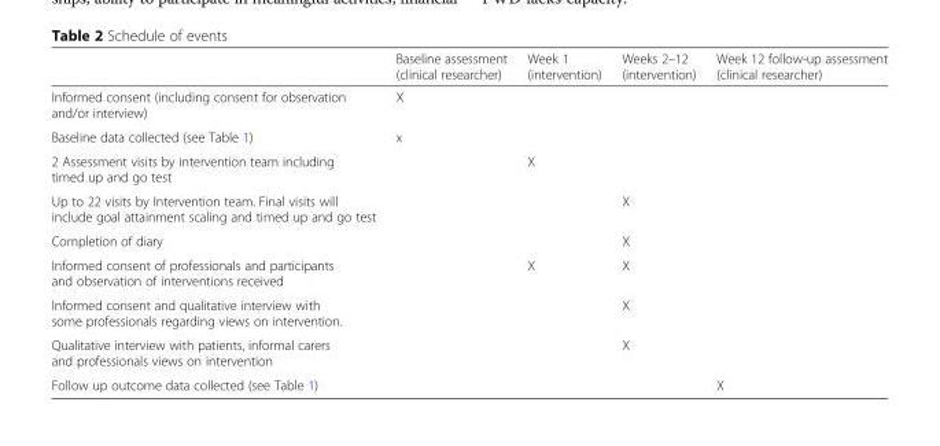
<table><thead><tr><td></td><td>Baseline assessment (clinical researcher)</td><td>Week 1 (intervention)</td><td>Weeks 2–12 (intervention)</td><td>Week 12 follow-up assessment (clinical researcher)</td></tr></thead><tbody><tr><td>Informed consent (including consent for observation and/or interview)</td><td>X</td><td></td><td></td><td></td></tr><tr><td>Baseline data collected (see Table 1)</td><td>x</td><td></td><td></td><td></td></tr><tr><td>2 Assessment visits by intervention team including timed up and go test</td><td></td><td>X</td><td></td><td></td></tr><tr><td>Up to 22 visits by Intervention team. Final visits will include goal attainment scaling and timed up and go test</td><td></td><td></td><td>X</td><td></td></tr><tr><td>Completion of diary</td><td></td><td></td><td>X</td><td></td></tr><tr><td>Informed consent of professionals and participants and observation of interventions received</td><td></td><td>X</td><td>X</td><td></td></tr><tr><td>Informed consent and qualitative interview with some professionals regarding views on intervention.</td><td></td><td></td><td>X</td><td></td></tr><tr><td>Qualitative interview with patients, informal carers and professionals views on intervention</td><td></td><td></td><td>X</td><td></td></tr><tr><td>Follow up outcome data collected (see Table 1)</td><td></td><td></td><td></td><td>X</td></tr></tbody></table>